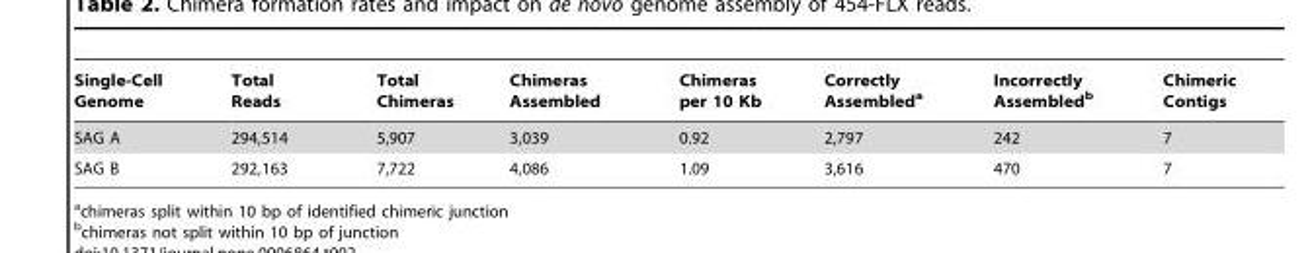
<table><thead><tr><td>Single-Cell Genome</td><td>Total Reads</td><td>Total Chimeras</td><td>Chimeras Assembled</td><td>Chimeras per 10 Kb</td><td>Correctly Assembled<sup>a</sup></td><td>Incorrectly Assembled<sup>b</sup></td><td>Chimeric Contigs</td></tr></thead><tbody><tr><td>SAG A</td><td>294,514</td><td>5,907</td><td>3,039</td><td>0.92</td><td>2,797</td><td>242</td><td>7</td></tr><tr><td>SAG B</td><td>292,163</td><td>7,722</td><td>4,086</td><td>1.09</td><td>3,616</td><td>470</td><td>7</td></tr></tbody></table>